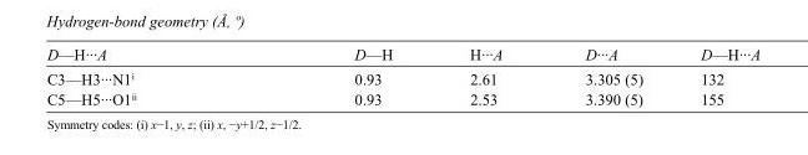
<table><tbody><tr><td>D—H···A</td><td>D—H</td><td>H···A</td><td>D···A</td><td>D—H···A</td></tr><tr><td>C3—H3···N1<sup>i</sup></td><td>0.93</td><td>2.61</td><td>3.305 (5)</td><td>132</td></tr><tr><td>C5—H5···O1<sup>ii</sup></td><td>0.93</td><td>2.53</td><td>3.390 (5)</td><td>155</td></tr></tbody></table>